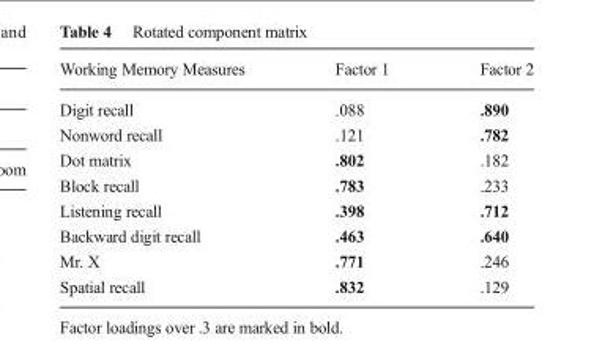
<table><thead><tr><td>Working Memory Measures</td><td>Factor 1</td><td>Factor 2</td></tr></thead><tbody><tr><td>Digit recall</td><td>.088</td><td>.890</td></tr><tr><td>Nonword recall</td><td>.121</td><td>.782</td></tr><tr><td>Dot matrix</td><td>.802</td><td>.182</td></tr><tr><td>Block recall</td><td>.783</td><td>.233</td></tr><tr><td>Listening recall</td><td>.398</td><td>.712</td></tr><tr><td>Backward digit recall</td><td>.463</td><td>.640</td></tr><tr><td>Mr. X</td><td>.771</td><td>.246</td></tr><tr><td>Spatial recall</td><td>.832</td><td>.129</td></tr></tbody></table>